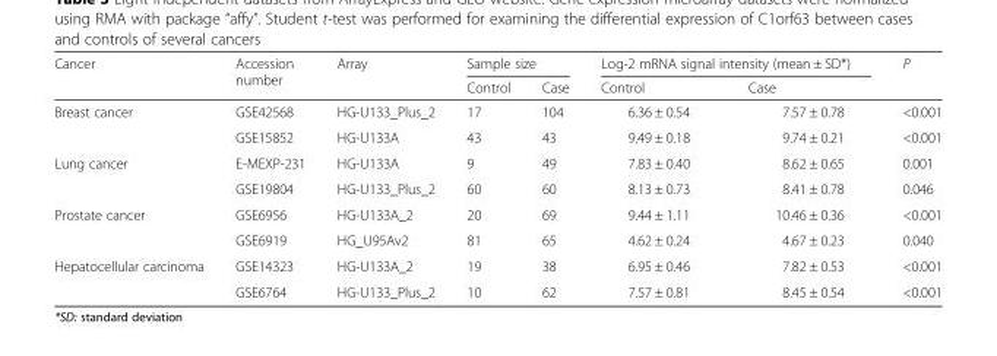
<table><thead><tr><td rowspan="2">Cancer</td><td rowspan="2">Accession number</td><td rowspan="2">Array</td><td colspan="2">Sample size</td><td colspan="2">Log-2 mRNA signal intensity (mean ± SD*)</td><td rowspan="2">P</td></tr><tr><td>Control</td><td>Case</td><td>Control</td><td>Case</td></tr></thead><tbody><tr><td rowspan="2">Breast cancer</td><td>GSE42568</td><td>HG-U133_Plus_2</td><td>17</td><td>104</td><td>6.36 ± 0.54</td><td>7.57 ± 0.78</td><td>&lt;0.001</td></tr><tr><td>GSE15852</td><td>HG-U133A</td><td>43</td><td>43</td><td>9.49 ± 0.18</td><td>9.74 ± 0.21</td><td>&lt;0.001</td></tr><tr><td rowspan="2">Lung cancer</td><td>E-MEXP-231</td><td>HG-U133A</td><td>9</td><td>49</td><td>7.83 ± 0.40</td><td>8.62 ± 0.65</td><td>0.001</td></tr><tr><td>GSE19804</td><td>HG-U133_Plus_2</td><td>60</td><td>60</td><td>8.13 ± 0.73</td><td>8.41 ± 0.78</td><td>0.046</td></tr><tr><td rowspan="2">Prostate cancer</td><td>GSE6956</td><td>HG-U133A_2</td><td>20</td><td>69</td><td>9.44 ± 1.11</td><td>10.46 ± 0.36</td><td>&lt;0.001</td></tr><tr><td>GSE6919</td><td>HG_U95Av2</td><td>81</td><td>65</td><td>4.62 ± 0.24</td><td>4.67 ± 0.23</td><td>0.040</td></tr><tr><td rowspan="2">Hepatocellular carcinoma</td><td>GSE14323</td><td>HG-U133A_2</td><td>19</td><td>38</td><td>6.95 ± 0.46</td><td>7.82 ± 0.53</td><td>&lt;0.001</td></tr><tr><td>GSE6764</td><td>HG-U133_Plus_2</td><td>10</td><td>62</td><td>7.57 ± 0.81</td><td>8.45 ± 0.54</td><td>&lt;0.001</td></tr></tbody></table>